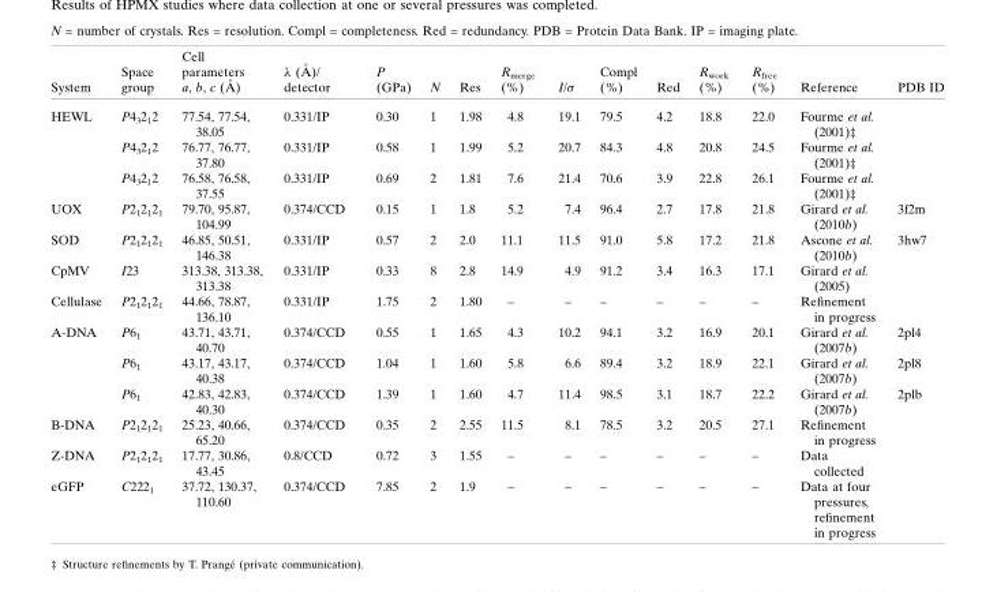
<table><thead><tr><td>System</td><td>Space group</td><td>Cell parameters a, b, c (A˚ )</td><td>� (A˚ )/ detector</td><td>P (GPa)</td><td>N</td><td>Res</td><td>R<sub>merge</sub> (%)</td><td>I/σ</td><td>Compl (%)</td><td>Red</td><td>R<sub>work</sub> (%)</td><td>R<sub>free</sub> (%)</td><td>Reference</td><td>PDB ID</td></tr></thead><tbody><tr><td rowspan="3">HEWL</td><td>P4<sub>3</sub>2<sub>1</sub>2</td><td>77.54, 77.54, 38.05</td><td>0.331/IP</td><td>0.30</td><td>1</td><td>1.98</td><td>4.8</td><td>19.1</td><td>79.5</td><td>4.2</td><td>18.8</td><td>22.0</td><td>Fourme et al. (2001)‡</td><td></td></tr><tr><td>P4<sub>3</sub>2<sub>1</sub>2</td><td>76.77, 76.77, 37.80</td><td>0.331/IP</td><td>0.58</td><td>1</td><td>1.99</td><td>5.2</td><td>20.7</td><td>84.3</td><td>4.8</td><td>20.8</td><td>24.5</td><td>Fourme et al. (2001)‡</td><td></td></tr><tr><td>P4<sub>3</sub>2<sub>1</sub>2</td><td>76.58, 76.58, 37.55</td><td>0.331/IP</td><td>0.69</td><td>2</td><td>1.81</td><td>7.6</td><td>21.4</td><td>70.6</td><td>3.9</td><td>22.8</td><td>26.1</td><td>Fourme et al. (2001)‡</td><td></td></tr><tr><td>UOX</td><td>P2<sub>1</sub>2<sub>1</sub>2<sub>1</sub></td><td>79.70, 95.87, 104.99</td><td>0.374/CCD</td><td>0.15</td><td>1</td><td>1.8</td><td>5.2</td><td>7.4</td><td>96.4</td><td>2.7</td><td>17.8</td><td>21.8</td><td>Girard et al. (2010b)</td><td>3f2m</td></tr><tr><td>SOD</td><td>P2<sub>1</sub>2<sub>1</sub>2<sub>1</sub></td><td>46.85, 50.51, 146.38</td><td>0.331/IP</td><td>0.57</td><td>2</td><td>2.0</td><td>11.1</td><td>11.5</td><td>91.0</td><td>5.8</td><td>17.2</td><td>21.8</td><td>Ascone et al. (2010b)</td><td>3hw7</td></tr><tr><td>CpMV</td><td>I23</td><td>313.38, 313.38, 313.38</td><td>0.331/IP</td><td>0.33</td><td>8</td><td>2.8</td><td>14.9</td><td>4.9</td><td>91.2</td><td>3.4</td><td>16.3</td><td>17.1</td><td>Girard et al. (2005)</td><td></td></tr><tr><td>Cellulase</td><td>P2<sub>1</sub>2<sub>1</sub>2<sub>1</sub></td><td>44.66, 78.87, 136.10</td><td>0.331/IP</td><td>1.75</td><td>2</td><td>1.80</td><td>–</td><td>–</td><td>–</td><td>–</td><td>–</td><td>–</td><td>Refinement in progress</td><td></td></tr><tr><td rowspan="3">A-DNA</td><td>P6<sub>1</sub></td><td>43.71, 43.71, 40.70</td><td>0.374/CCD</td><td>0.55</td><td>1</td><td>1.65</td><td>4.3</td><td>10.2</td><td>94.1</td><td>3.2</td><td>16.9</td><td>20.1</td><td>Girard et al. (2007b)</td><td>2pl4</td></tr><tr><td>P6<sub>1</sub></td><td>43.17, 43.17, 40.38</td><td>0.374/CCD</td><td>1.04</td><td>1</td><td>1.60</td><td>5.8</td><td>6.6</td><td>89.4</td><td>3.2</td><td>18.9</td><td>22.1</td><td>Girard et al. (2007b)</td><td>2pl8</td></tr><tr><td>P6<sub>1</sub></td><td>42.83, 42.83, 40.30</td><td>0.374/CCD</td><td>1.39</td><td>1</td><td>1.60</td><td>4.7</td><td>11.4</td><td>98.5</td><td>3.1</td><td>18.7</td><td>22.2</td><td>Girard et al. (2007b)</td><td>2plb</td></tr><tr><td>B-DNA</td><td>P2<sub>1</sub>2<sub>1</sub>2<sub>1</sub></td><td>25.23, 40.66, 65.20</td><td>0.374/CCD</td><td>0.35</td><td>2</td><td>2.55</td><td>11.5</td><td>8.1</td><td>78.5</td><td>3.2</td><td>20.5</td><td>27.1</td><td>Refinement in progress</td><td></td></tr><tr><td>Z-DNA</td><td>P2<sub>1</sub>2<sub>1</sub>2<sub>1</sub></td><td>17.77, 30.86, 43.45</td><td>0.8/CCD</td><td>0.72</td><td>3</td><td>1.55</td><td>–</td><td>–</td><td>–</td><td>–</td><td>–</td><td>–</td><td>Data collected</td><td></td></tr><tr><td>eGFP</td><td>C222<sub>1</sub></td><td>37.72, 130.37, 110.60</td><td>0.374/CCD</td><td>7.85</td><td>2</td><td>1.9</td><td>–</td><td>–</td><td>–</td><td>–</td><td>–</td><td>–</td><td>Data at four pressures, refinement in progress</td><td></td></tr></tbody></table>